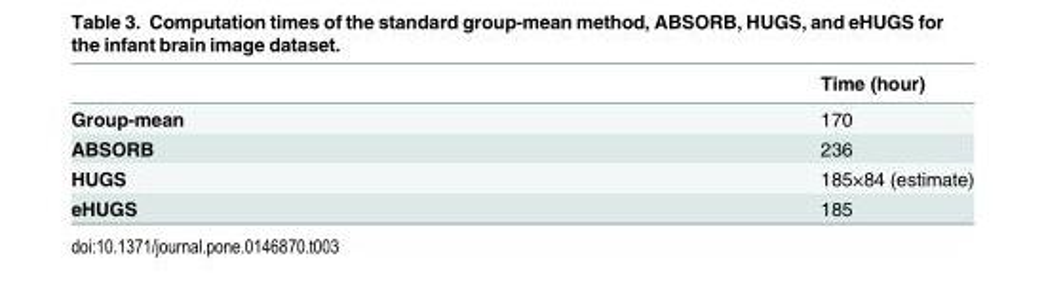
<table><thead><tr><td></td><td>Time (hour)</td></tr></thead><tbody><tr><td>Group-mean</td><td>170</td></tr><tr><td>ABSORB</td><td>236</td></tr><tr><td>HUGS</td><td>185×84 (estimate)</td></tr><tr><td>eHUGS</td><td>185</td></tr></tbody></table>